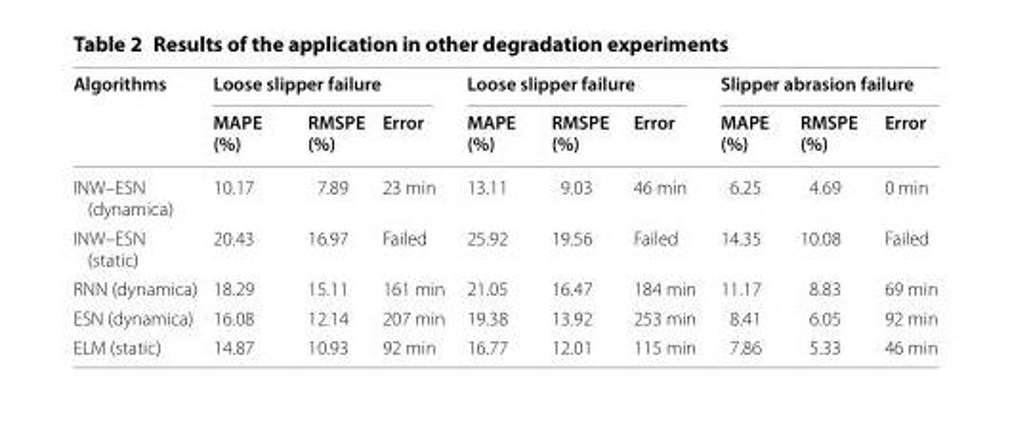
<table><thead><tr><td rowspan="2">Algorithms</td><td colspan="3">Loose slipper failure</td><td colspan="3">Loose slipper failure</td><td colspan="3">Slipper abrasion failure</td></tr><tr><td>MAPE (%)</td><td>RMSPE (%)</td><td>Error</td><td>MAPE (%)</td><td>RMSPE (%)</td><td>Error</td><td>MAPE (%)</td><td>RMSPE (%)</td><td>Error</td></tr></thead><tbody><tr><td>INW–ESN (dynamica)</td><td>10.17</td><td>7.89</td><td>23 min</td><td>13.11</td><td>9.03</td><td>46 min</td><td>6.25</td><td>4.69</td><td>0 min</td></tr><tr><td>INW–ESN (static)</td><td>20.43</td><td>16.97</td><td>Failed</td><td>25.92</td><td>19.56</td><td>Failed</td><td>14.35</td><td>10.08</td><td>Failed</td></tr><tr><td>RNN (dynamica)</td><td>18.29</td><td>15.11</td><td>161 min</td><td>21.05</td><td>16.47</td><td>184 min</td><td>11.17</td><td>8.83</td><td>69 min</td></tr><tr><td>ESN (dynamica)</td><td>16.08</td><td>12.14</td><td>207 min</td><td>19.38</td><td>13.92</td><td>253 min</td><td>8.41</td><td>6.05</td><td>92 min</td></tr><tr><td>ELM (static)</td><td>14.87</td><td>10.93</td><td>92 min</td><td>16.77</td><td>12.01</td><td>115 min</td><td>7.86</td><td>5.33</td><td>46 min</td></tr></tbody></table>